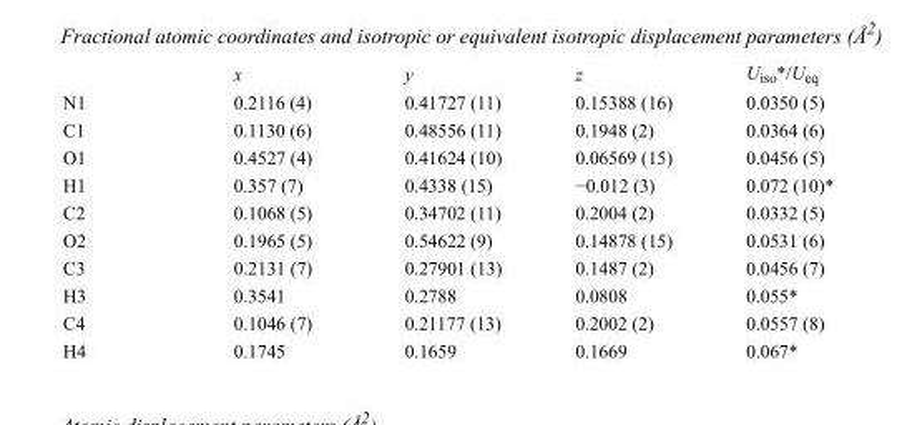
<table><thead><tr><td></td><td>x</td><td>y</td><td>z</td><td>U<sub>iso</sub>*/U<sub>eq</sub></td></tr></thead><tbody><tr><td>N1</td><td>0.2116 (4)</td><td>0.41727 (11)</td><td>0.15388 (16)</td><td>0.0350 (5)</td></tr><tr><td>C1</td><td>0.1130 (6)</td><td>0.48556 (11)</td><td>0.1948 (2)</td><td>0.0364 (6)</td></tr><tr><td>O1</td><td>0.4527 (4)</td><td>0.41624 (10)</td><td>0.06569 (15)</td><td>0.0456 (5)</td></tr><tr><td>H1</td><td>0.357 (7)</td><td>0.4338 (15)</td><td>−0.012 (3)</td><td>0.072 (10)*</td></tr><tr><td>C2</td><td>0.1068 (5)</td><td>0.34702 (11)</td><td>0.2004 (2)</td><td>0.0332 (5)</td></tr><tr><td>O2</td><td>0.1965 (5)</td><td>0.54622 (9)</td><td>0.14878 (15)</td><td>0.0531 (6)</td></tr><tr><td>C3</td><td>0.2131 (7)</td><td>0.27901 (13)</td><td>0.1487 (2)</td><td>0.0456 (7)</td></tr><tr><td>H3</td><td>0.3541</td><td>0.2788</td><td>0.0808</td><td>0.055*</td></tr><tr><td>C4</td><td>0.1046 (7)</td><td>0.21177 (13)</td><td>0.2002 (2)</td><td>0.0557 (8)</td></tr><tr><td>H4</td><td>0.1745</td><td>0.1659</td><td>0.1669</td><td>0.067*</td></tr></tbody></table>